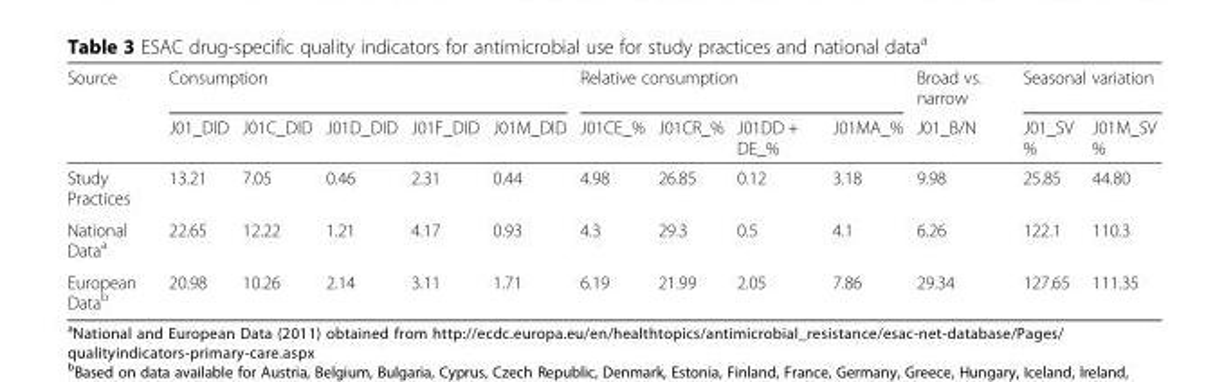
<table><thead><tr><td rowspan="2">Source</td><td colspan="5">Consumption</td><td colspan="4">Relative consumption</td><td rowspan="2">Broad vs. narrow J01_B/N</td><td colspan="2">Seasonal variation</td></tr><tr><td>J01_DID</td><td>J01C_DID</td><td>J01D_DID</td><td>J01F_DID</td><td>J01M_DID</td><td>J01CE_%</td><td>J01CR_%</td><td>J01DD + DE_%</td><td>J01MA_%</td><td>J01_SV %</td><td>J01M_SV %</td></tr></thead><tbody><tr><td>Study Practices</td><td>13.21</td><td>7.05</td><td>0.46</td><td>2.31</td><td>0.44</td><td>4.98</td><td>26.85</td><td>0.12</td><td>3.18</td><td>9.98</td><td>25.85</td><td>44.80</td></tr><tr><td>National Data<sup>a</sup></td><td>22.65</td><td>12.22</td><td>1.21</td><td>4.17</td><td>0.93</td><td>4.3</td><td>29.3</td><td>0.5</td><td>4.1</td><td>6.26</td><td>122.1</td><td>110.3</td></tr><tr><td>European Data<sup>b</sup></td><td>20.98</td><td>10.26</td><td>2.14</td><td>3.11</td><td>1.71</td><td>6.19</td><td>21.99</td><td>2.05</td><td>7.86</td><td>29.34</td><td>127.65</td><td>111.35</td></tr></tbody></table>